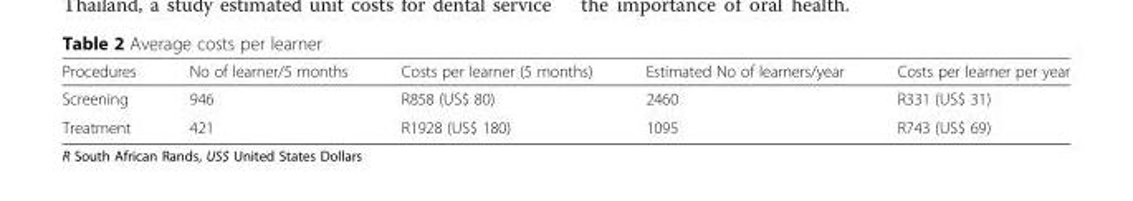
<table><thead><tr><td>Procedures</td><td>No of learner/5 months</td><td>Costs per learner (5 months)</td><td>Estimated No of learners/year</td><td>Costs per learner per year</td></tr></thead><tbody><tr><td>Screening</td><td>946</td><td>R858 (US$ 80)</td><td>2460</td><td>R331 (US$ 31)</td></tr><tr><td>Treatment</td><td>421</td><td>R1928 (US$ 180)</td><td>1095</td><td>R743 (US$ 69)</td></tr></tbody></table>